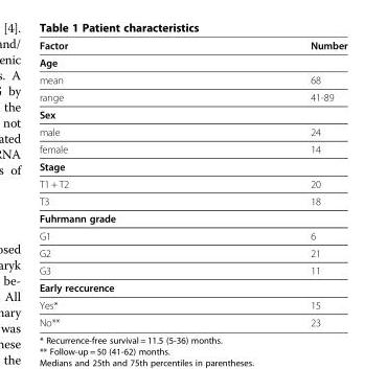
<table><thead><tr><td>Factor</td><td>Number</td></tr></thead><tbody><tr><td colspan="2">Age</td></tr><tr><td>mean</td><td>68</td></tr><tr><td>range</td><td>41-89</td></tr><tr><td colspan="2">Sex</td></tr><tr><td>male</td><td>24</td></tr><tr><td>female</td><td>14</td></tr><tr><td colspan="2">Stage</td></tr><tr><td>T1 + T2</td><td>20</td></tr><tr><td>T3</td><td>18</td></tr><tr><td colspan="2">Fuhrmann grade</td></tr><tr><td>G1</td><td>6</td></tr><tr><td>G2</td><td>21</td></tr><tr><td>G3</td><td>11</td></tr><tr><td colspan="2">Early reccurence</td></tr><tr><td>Yes*</td><td>15</td></tr><tr><td>No**</td><td>23</td></tr></tbody></table>